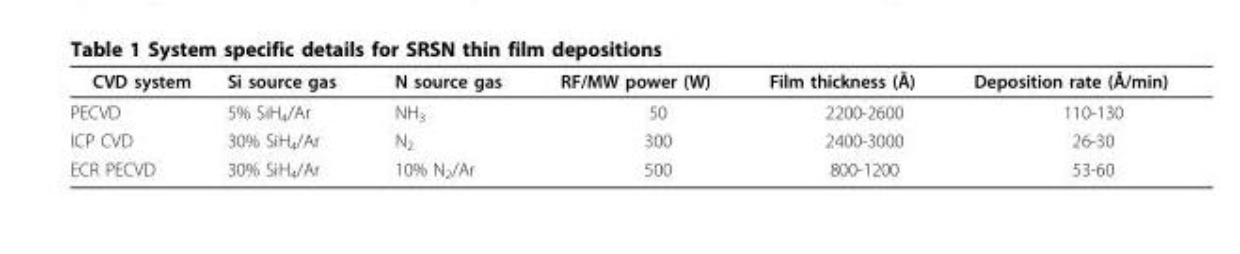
<table><thead><tr><td>CVD system</td><td>Si source gas</td><td>N source gas</td><td>RF/MW power (W)</td><td>Film thickness (Å)</td><td>Deposition rate (Å/min)</td></tr></thead><tbody><tr><td>PECVD</td><td>5% SiH<sub>4</sub>/Ar</td><td>NH<sub>3</sub></td><td>50</td><td>2200-2600</td><td>110-130</td></tr><tr><td>ICP CVD</td><td>30% SiH<sub>4</sub>/Ar</td><td>N<sub>2</sub></td><td>300</td><td>2400-3000</td><td>26-30</td></tr><tr><td>ECR PECVD</td><td>30% SiH<sub>4</sub>/Ar</td><td>10% N<sub>2</sub>/Ar</td><td>500</td><td>800-1200</td><td>53-60</td></tr></tbody></table>